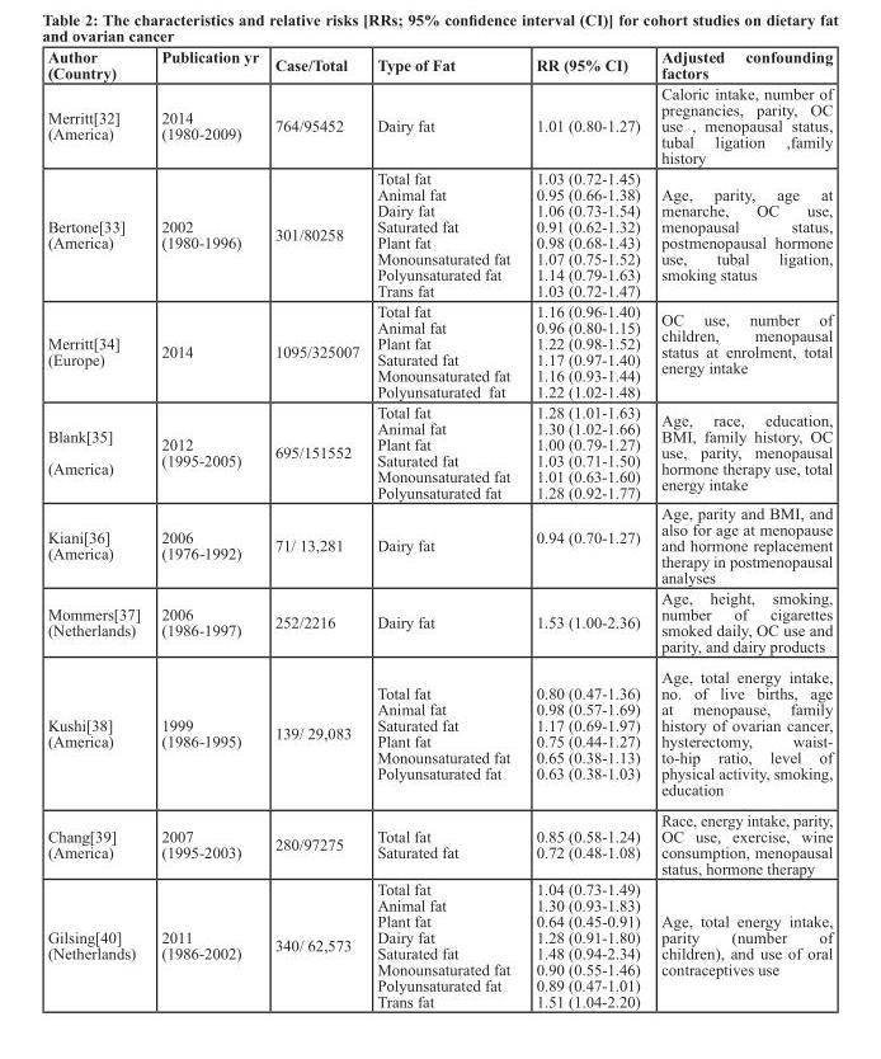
<table><thead><tr><td>Author (Country)</td><td>Publication yr</td><td>case/total</td><td>type of Fat</td><td>RR (95% CI)</td><td>Adjusted confounding factors</td></tr></thead><tbody><tr><td>Merritt[32] (America)</td><td>2014 (1980-2009)</td><td>764/95452</td><td>Dairy fat</td><td>1.01 (0.80-1.27)</td><td>Caloric intake, number of pregnancies, parity, OC use , menopausal status, tubal ligation ,family history</td></tr><tr><td>Bertone[33] (America)</td><td>2002 (1980-1996)</td><td>301/80258</td><td>Total fat Animal fat Dairy fat Saturated fat Plant fat Monounsaturated fat Polyunsaturated fat Trans fat</td><td>1.03 (0.72-1.45) 0.95 (0.66-1.38) 1.06 (0.73-1.54) 0.91 (0.62-1.32) 0.98 (0.68-1.43) 1.07 (0.75-1.52) 1.14 (0.79-1.63) 1.03 (0.72-1.47)</td><td>Age, parity, age at menarche, OC use, menopausal status, postmenopausal hormone use, tubal ligation, smoking status</td></tr><tr><td>Merritt[34] (Europe)</td><td>2014</td><td>1095/325007</td><td>Total fat Animal fat Plant fat Saturated fat Monounsaturated fat Polyunsaturated fat</td><td>1.16 (0.96-1.40) 0.96 (0.80-1.15) 1.22 (0.98-1.52) 1.17 (0.97-1.40) 1.16 (0.93-1.44) 1.22 (1.02-1.48)</td><td>OC use, number of children, menopausal status at enrolment, total energy intake</td></tr><tr><td>Blank[35] (America)</td><td>2012 (1995-2005)</td><td>695/151552</td><td>Total fat Animal fat Plant fat Saturated fat Monounsaturated fat Polyunsaturated fat</td><td>1.28 (1.01-1.63) 1.30 (1.02-1.66) 1.00 (0.79-1.27) 1.03 (0.71-1.50) 1.01 (0.63-1.60) 1.28 (0.92-1.77)</td><td>Age, race, education, BMI, family history, OC use, parity, menopausal hormone therapy use, total energy intake</td></tr><tr><td>Kiani[36] (America)</td><td>2006 (1976-1992)</td><td>71/ 13,281</td><td>Dairy fat</td><td>0.94 (0.70-1.27)</td><td>Age, parity and BMI, and also for age at menopause and hormone replacement therapy in postmenopausal analyses</td></tr><tr><td>Mommers[37] (Netherlands)</td><td>2006 (1986-1997)</td><td>252/2216</td><td>Dairy fat</td><td>1.53 (1.00-2.36)</td><td>Age, height, smoking, number of cigarettes smoked daily, OC use and parity, and dairy products</td></tr><tr><td>Kushi[38] (America)</td><td>1999 (1986-1995)</td><td>139/ 29,083</td><td>Total fat Animal fat Saturated fat Plant fat Monounsaturated fat Polyunsaturated fat</td><td>0.80 (0.47-1.36) 0.98 (0.57-1.69) 1.17 (0.69-1.97) 0.75 (0.44-1.27) 0.65 (0.38-1.13) 0.63 (0.38-1.03)</td><td>Age, total energy intake, no. of live births, age at menopause, family history of ovarian cancer, hysterectomy, waist- to-hip ratio, level of physical activity, smoking, education</td></tr><tr><td>Chang[39] (America)</td><td>2007 (1995-2003)</td><td>280/97275</td><td>Total fat Saturated fat</td><td>0.85 (0.58-1.24) 0.72 (0.48-1.08)</td><td>Race, energy intake, parity, OC use, exercise, wine consumption, menopausal status, hormone therapy</td></tr><tr><td>Gilsing[40] (Netherlands)</td><td>2011 (1986-2002)</td><td>340/ 62,573</td><td>Total fat Animal fat Plant fat Dairy fat Saturated fat Monounsaturated fat Polyunsaturated fat Trans fat</td><td>1.04 (0.73-1.49) 1.30 (0.93-1.83) 0.64 (0.45-0.91) 1.28 (0.91-1.80) 1.48 (0.94-2.34) 0.90 (0.55-1.46) 0.89 (0.47-1.01) 1.51 (1.04-2.20)</td><td>Age, total energy intake, parity (number of children), and use of oral contraceptives use</td></tr></tbody></table>